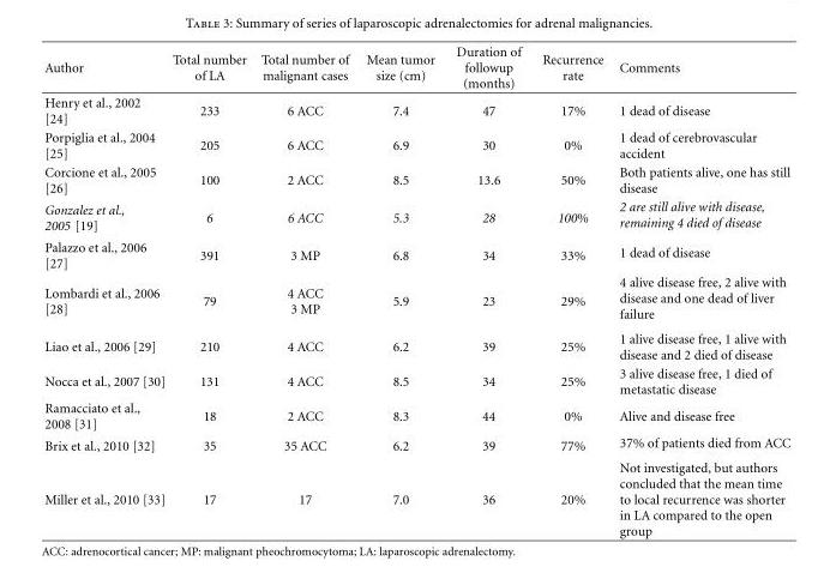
<table><thead><tr><td>Author</td><td>Total number of LA</td><td>Total number of malignant cases</td><td>Mean tumor size (cm)</td><td>Duration of followup (months)</td><td>Recurrence rate</td><td>Comments</td></tr></thead><tbody><tr><td>Henry et al., 2002 [24]</td><td>233</td><td>6 ACC</td><td>7.4</td><td>47</td><td>17%</td><td>1 dead of disease</td></tr><tr><td>Porpiglia et al., 2004 [25]</td><td>205</td><td>6 ACC</td><td>6.9</td><td>30</td><td>0%</td><td>1 dead of cerebrovascular accident</td></tr><tr><td>Corcione et al., 2005 [26]</td><td>100</td><td>2 ACC</td><td>8.5</td><td>13.6</td><td>50%</td><td>Both patients alive, one has still disease</td></tr><tr><td>Gonzalez et al., 2005 [19]</td><td>6</td><td>6 ACC</td><td>5.3</td><td>28</td><td>100%</td><td>2 are still alive with disease, remaining 4 died of disease</td></tr><tr><td>Palazzo et al., 2006 [27]</td><td>391</td><td>3 MP</td><td>6.8</td><td>34</td><td>33%</td><td>1 dead of disease</td></tr><tr><td>Lombardi et al., 2006 [28]</td><td>79</td><td>4 ACC 3 MP</td><td>5.9</td><td>23</td><td>29%</td><td>4 alive disease free, 2 alive with disease and one dead of liver failure</td></tr><tr><td>Liao et al., 2006 [29]</td><td>210</td><td>4 ACC</td><td>6.2</td><td>39</td><td>25%</td><td>1 alive disease free, 1 alive with disease and 2 died of disease</td></tr><tr><td>Nocca et al., 2007 [30]</td><td>131</td><td>4 ACC</td><td>8.5</td><td>34</td><td>25%</td><td>3 alive disease free, 1 died of metastatic disease</td></tr><tr><td>Ramacciato et al., 2008 [31]</td><td>18</td><td>2 ACC</td><td>8.3</td><td>44</td><td>0%</td><td>Alive and disease free</td></tr><tr><td>Brix et al., 2010 [32]</td><td>35</td><td>35 ACC</td><td>6.2</td><td>39</td><td>77%</td><td>37% of patients died from ACC</td></tr><tr><td>Miller et al., 2010 [33]</td><td>17</td><td>17</td><td>7.0</td><td>36</td><td>20%</td><td>Not investigated, but authors concluded that the mean time to local recurrence was shorter in LA compared to the open group</td></tr></tbody></table>